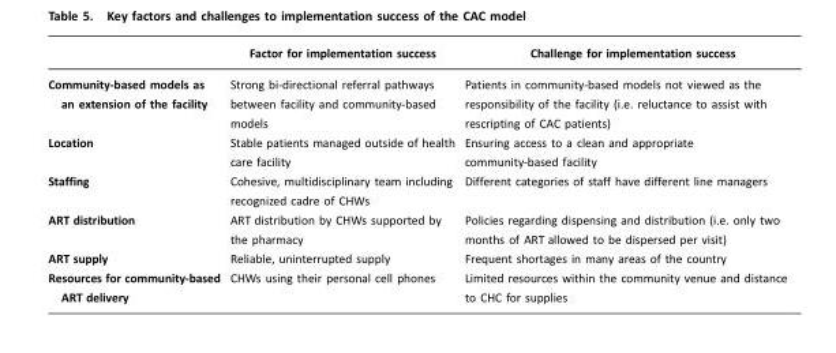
<table><thead><tr><td></td><td>Factor for implementation success</td><td>Challenge for implementation success</td></tr></thead><tbody><tr><td>Community-based models as an extension of the facility</td><td>Strong bi-directional referral pathways between facility and community-based models</td><td>Patients in community-based models not viewed as the responsibility of the facility (i.e. reluctance to assist with rescripting of CAC patients)</td></tr><tr><td>Location</td><td>Stable patients managed outside of health care facility</td><td>Ensuring access to a clean and appropriate community-based facility</td></tr><tr><td>Staffing</td><td>Cohesive, multidisciplinary team including recognized cadre of CHWs</td><td>Different categories of staff have different line managers</td></tr><tr><td>ART distribution</td><td>ART distribution by CHWs supported by the pharmacy</td><td>Policies regarding dispensing and distribution (i.e. only two months of ART allowed to be dispersed per visit)</td></tr><tr><td>ART supply</td><td>Reliable, uninterrupted supply</td><td>Frequent shortages in many areas of the country</td></tr><tr><td>Resources for community-based ART delivery</td><td>CHWs using their personal cell phones</td><td>Limited resources within the community venue and distance to CHC for supplies</td></tr></tbody></table>